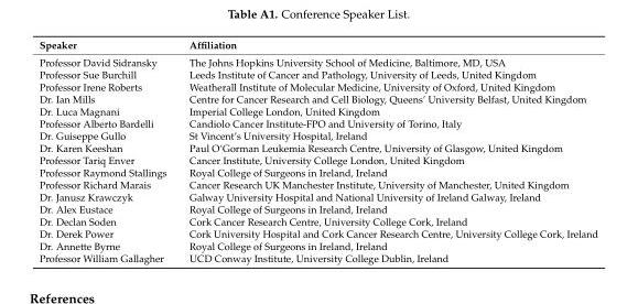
<table><thead><tr><td>Speaker</td><td>Affiliation</td></tr></thead><tbody><tr><td>Professor David Sidransky</td><td>The Johns Hopkins University School of Medicine, Baltimore, MD, USA</td></tr><tr><td>Professor Sue Burchill</td><td>Leeds Institute of Cancer and Pathology, University of Leeds, United Kingdom</td></tr><tr><td>Professor Irene Roberts</td><td>Weatherall Institute of Molecular Medicine, University of Oxford, United Kingdom</td></tr><tr><td>Dr. Ian Mills</td><td>Centre for Cancer Research and Cell Biology, Queens’ University Belfast, United Kingdom</td></tr><tr><td>Dr. Luca Magnani</td><td>Imperial College London, United Kingdom</td></tr><tr><td>Professor Alberto Bardelli</td><td>Candiolo Cancer Institute-FPO and University of Torino, Italy</td></tr><tr><td>Dr. Guiseppe Gullo</td><td>St Vincent’s University Hospital, Ireland</td></tr><tr><td>Dr. Karen Keeshan</td><td>Paul O’Gorman Leukemia Research Centre, University of Glasgow, United Kingdom</td></tr><tr><td>Professor Tariq Enver</td><td>Cancer Institute, University College London, United Kingdom</td></tr><tr><td>Professor Raymond Stallings</td><td>Royal College of Surgeons in Ireland, Ireland</td></tr><tr><td>Professor Richard Marais</td><td>Cancer Research UK Manchester Institute, University of Manchester, United Kingdom</td></tr><tr><td>Dr. Janusz Krawczyk</td><td>Galway University Hospital and National University of Ireland Galway, Ireland</td></tr><tr><td>Dr. Alex Eustace</td><td>Royal College of Surgeons in Ireland, Ireland</td></tr><tr><td>Dr. Declan Soden</td><td>Cork Cancer Research Centre, University College Cork, Ireland</td></tr><tr><td>Dr. Derek Power</td><td>Cork University Hospital and Cork Cancer Research Centre, University College Cork, Ireland</td></tr><tr><td>Dr. Annette Byrne</td><td>Royal College of Surgeons in Ireland, Ireland</td></tr><tr><td>Professor William Gallagher</td><td>UCD Conway Institute, University College Dublin, Ireland</td></tr></tbody></table>